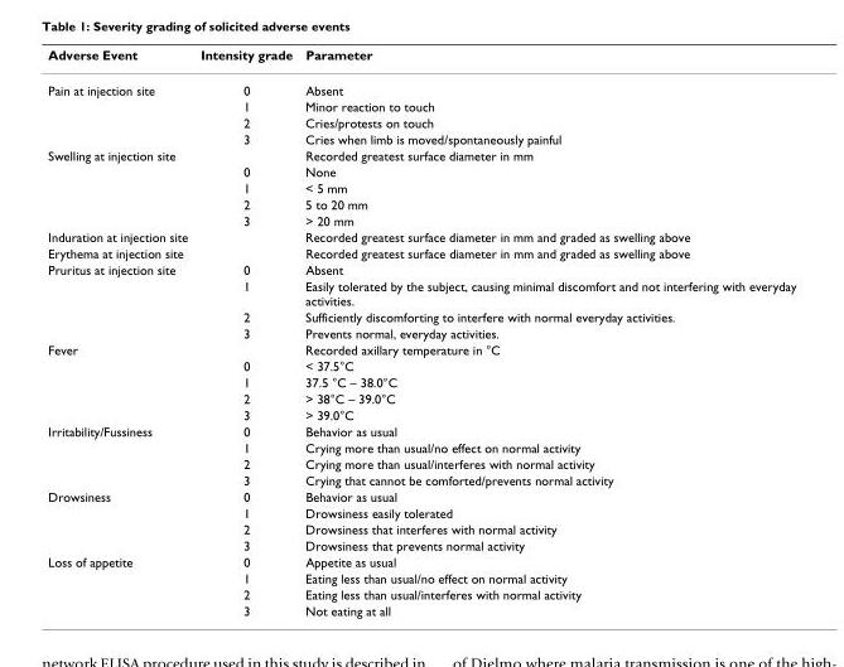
<table><thead><tr><td>Adverse Event</td><td>Intensity grade</td><td>Parameter</td></tr></thead><tbody><tr><td rowspan="4">Pain at injection site</td><td>0</td><td>Absent</td></tr><tr><td>1</td><td>Minor reaction to touch</td></tr><tr><td>2</td><td>Cries/protests on touch</td></tr><tr><td>3</td><td>Cries when limb is moved/spontaneously painful</td></tr><tr><td rowspan="5">Swelling at injection site</td><td></td><td>Recorded greatest surface diameter in mm</td></tr><tr><td>0</td><td>None</td></tr><tr><td>1</td><td>&lt; 5 mm</td></tr><tr><td>2</td><td>5 to 20 mm</td></tr><tr><td>3</td><td>&gt; 20 mm</td></tr><tr><td>Induration at injection site</td><td></td><td>Recorded greatest surface diameter in mm and graded as swelling above</td></tr><tr><td>Erythema at injection site</td><td></td><td>Recorded greatest surface diameter in mm and graded as swelling above</td></tr><tr><td rowspan="4">Pruritus at injection site</td><td>0</td><td>Absent</td></tr><tr><td>1</td><td>Easily tolerated by the subject, causing minimal discomfort and not interfering with everyday activities.</td></tr><tr><td>2</td><td>Sufficiently discomforting to interfere with normal everyday activities.</td></tr><tr><td>3</td><td>Prevents normal, everyday activities.</td></tr><tr><td rowspan="5">Fever</td><td></td><td>Recorded axillary temperature in °C</td></tr><tr><td>0</td><td>&lt; 37.5°C</td></tr><tr><td>1</td><td>37.5 °C – 38.0°C</td></tr><tr><td>2</td><td>&gt; 38°C – 39.0°C</td></tr><tr><td>3</td><td>&gt; 39.0°C</td></tr><tr><td rowspan="4">Irritability/Fussiness</td><td>0</td><td>Behavior as usual</td></tr><tr><td>1</td><td>Crying more than usual/no effect on normal activity</td></tr><tr><td>2</td><td>Crying more than usual/interferes with normal activity</td></tr><tr><td>3</td><td>Crying that cannot be comforted/prevents normal activity</td></tr><tr><td rowspan="4">Drowsiness</td><td>0</td><td>Behavior as usual</td></tr><tr><td>1</td><td>Drowsiness easily tolerated</td></tr><tr><td>2</td><td>Drowsiness that interferes with normal activity</td></tr><tr><td>3</td><td>Drowsiness that prevents normal activity</td></tr><tr><td rowspan="4">Loss of appetite</td><td>0</td><td>Appetite as usual</td></tr><tr><td>1</td><td>Eating less than usual/no effect on normal activity</td></tr><tr><td>2</td><td>Eating less than usual/interferes with normal activity</td></tr><tr><td>3</td><td>Not eating at all</td></tr></tbody></table>